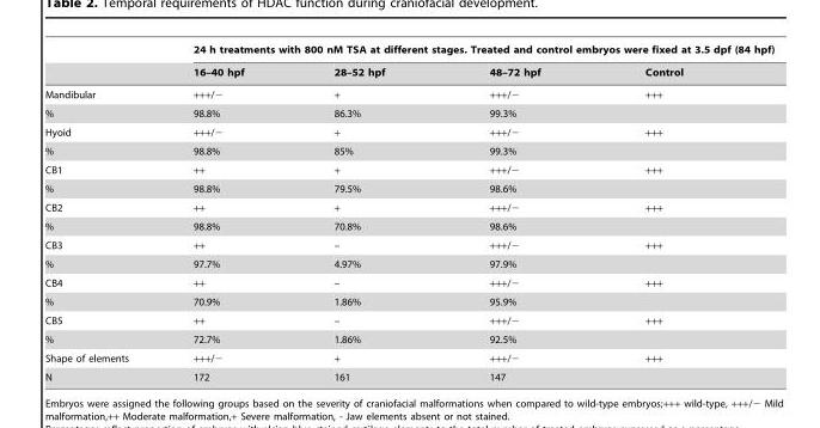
<table><thead><tr><td rowspan="2"></td><td colspan="4">24 h treatments with 800 nM TSA at different stages. Treated and control embryos were fixed at 3.5 dpf (84 hpf)</td></tr><tr><td>16–40 hpf</td><td>28–52 hpf</td><td>48–72 hpf</td><td>Control</td></tr></thead><tbody><tr><td>Mandibular</td><td>+++/−</td><td>+</td><td>+++/−</td><td>+++</td></tr><tr><td>%</td><td>98.8%</td><td>86.3%</td><td>99.3%</td><td></td></tr><tr><td>Hyoid</td><td>+++/−</td><td>+</td><td>+++/−</td><td>+++</td></tr><tr><td>%</td><td>98.8%</td><td>85%</td><td>99.3%</td><td></td></tr><tr><td>CB1</td><td>++</td><td>+</td><td>+++/−</td><td>+++</td></tr><tr><td>%</td><td>98.8%</td><td>79.5%</td><td>98.6%</td><td></td></tr><tr><td>CB2</td><td>++</td><td>+</td><td>+++/−</td><td>+++</td></tr><tr><td>%</td><td>98.8%</td><td>70.8%</td><td>98.6%</td><td></td></tr><tr><td>CB3</td><td>++</td><td>–</td><td>+++/−</td><td>+++</td></tr><tr><td>%</td><td>97.7%</td><td>4.97%</td><td>97.9%</td><td></td></tr><tr><td>CB4</td><td>++</td><td>–</td><td>+++/−</td><td>+++</td></tr><tr><td>%</td><td>70.9%</td><td>1.86%</td><td>95.9%</td><td></td></tr><tr><td>CB5</td><td>++</td><td>–</td><td>+++/−</td><td>+++</td></tr><tr><td>%</td><td>72.7%</td><td>1.86%</td><td>92.5%</td><td></td></tr><tr><td>Shape of elements</td><td>+++/−</td><td>+</td><td>+++/−</td><td>+++</td></tr><tr><td>N</td><td>172</td><td>161</td><td>147</td><td></td></tr></tbody></table>